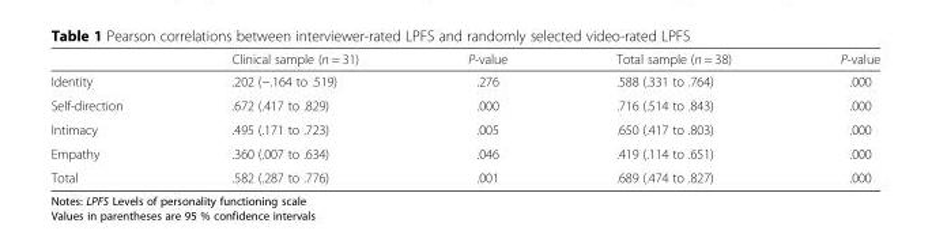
<table><thead><tr><td></td><td>Clinical sample (n = 31)</td><td>P-value</td><td>Total sample (n = 38)</td><td>P-value</td></tr></thead><tbody><tr><td>Identity</td><td>.202 (−.164 to .519)</td><td>.276</td><td>.588 (.331 to .764)</td><td>.000</td></tr><tr><td>Self-direction</td><td>.672 (.417 to .829)</td><td>.000</td><td>.716 (.514 to .843)</td><td>.000</td></tr><tr><td>Intimacy</td><td>.495 (.171 to .723)</td><td>.005</td><td>.650 (.417 to .803)</td><td>.000</td></tr><tr><td>Empathy</td><td>.360 (.007 to .634)</td><td>.046</td><td>.419 (.114 to .651)</td><td>.000</td></tr><tr><td>Total</td><td>.582 (.287 to .776)</td><td>.001</td><td>.689 (.474 to .827)</td><td>.000</td></tr></tbody></table>